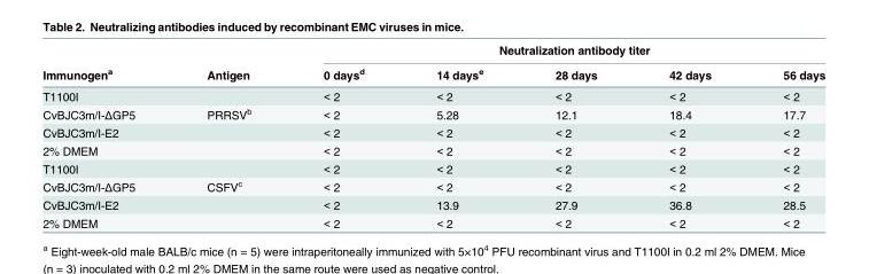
<table><thead><tr><td rowspan="2">Immunogen<sup>a</sup></td><td rowspan="2">Antigen</td><td colspan="5">Neutralization antibody titer</td></tr><tr><td>0 days<sup>d</sup></td><td>14 days<sup>e</sup></td><td>28 days</td><td>42 days</td><td>56 days</td></tr></thead><tbody><tr><td>T1100I</td><td></td><td>&lt; 2</td><td>&lt; 2</td><td>&lt; 2</td><td>&lt; 2</td><td>&lt; 2</td></tr><tr><td>CvBJC3m/I-ΔGP5</td><td>PRRSV<sup>b</sup></td><td>&lt; 2</td><td>5.28</td><td>12.1</td><td>18.4</td><td>17.7</td></tr><tr><td>CvBJC3m/I-E2</td><td></td><td>&lt; 2</td><td>&lt; 2</td><td>&lt; 2</td><td>&lt; 2</td><td>&lt; 2</td></tr><tr><td>2% DMEM</td><td></td><td>&lt; 2</td><td>&lt; 2</td><td>&lt; 2</td><td>&lt; 2</td><td>&lt; 2</td></tr><tr><td>T1100I</td><td></td><td>&lt; 2</td><td>&lt; 2</td><td>&lt; 2</td><td>&lt; 2</td><td>&lt; 2</td></tr><tr><td>CvBJC3m/I-ΔGP5</td><td>CSFV<sup>c</sup></td><td>&lt; 2</td><td>&lt; 2</td><td>&lt; 2</td><td>&lt; 2</td><td>&lt; 2</td></tr><tr><td>CvBJC3m/I-E2</td><td></td><td>&lt; 2</td><td>13.9</td><td>27.9</td><td>36.8</td><td>28.5</td></tr><tr><td>2% DMEM</td><td></td><td>&lt; 2</td><td>&lt; 2</td><td>&lt; 2</td><td>&lt; 2</td><td>&lt; 2</td></tr></tbody></table>